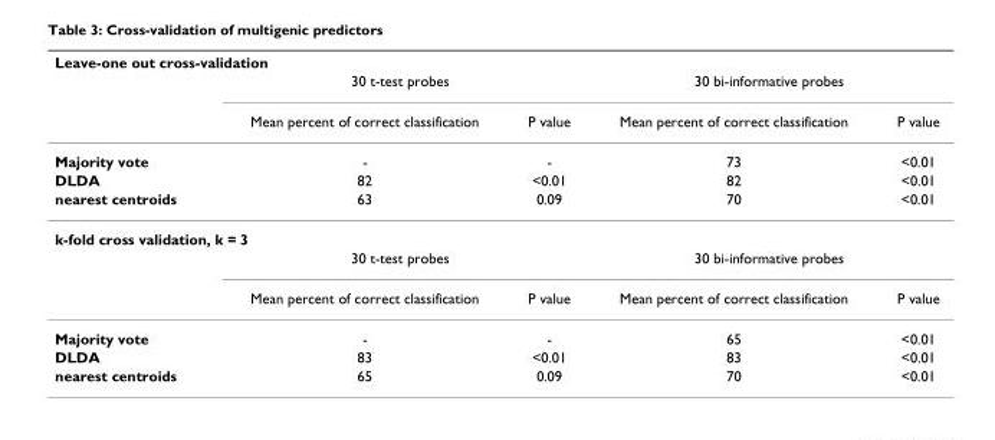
<table><thead><tr><td colspan="5">Leave-one out cross-validation</td></tr><tr><td rowspan="2"></td><td colspan="2">30 t-test probes</td><td colspan="2">30 bi-informative probes</td></tr><tr><td>Mean percent of correct classification</td><td>P value</td><td>Mean percent of correct classification</td><td>P value</td></tr></thead><tbody><tr><td>Majority vote</td><td>-</td><td>-</td><td>73</td><td>&lt;0.01</td></tr><tr><td>DLDA</td><td>82</td><td>&lt;0.01</td><td>82</td><td>&lt;0.01</td></tr><tr><td>nearest centroids</td><td>63</td><td>0.09</td><td>70</td><td>&lt;0.01</td></tr><tr><td colspan="5">k-fold cross validation, k = 3</td></tr><tr><td></td><td colspan="2">30 t-test probes</td><td colspan="2">30 bi-informative probes</td></tr><tr><td></td><td>Mean percent of correct classification</td><td>P value</td><td>Mean percent of correct classification</td><td>P value</td></tr><tr><td>Majority vote</td><td>-</td><td>-</td><td>65</td><td>&lt;0.01</td></tr><tr><td>DLDA</td><td>83</td><td>&lt;0.01</td><td>83</td><td>&lt;0.01</td></tr><tr><td>nearest centroids</td><td>65</td><td>0.09</td><td>70</td><td>&lt;0.01</td></tr></tbody></table>